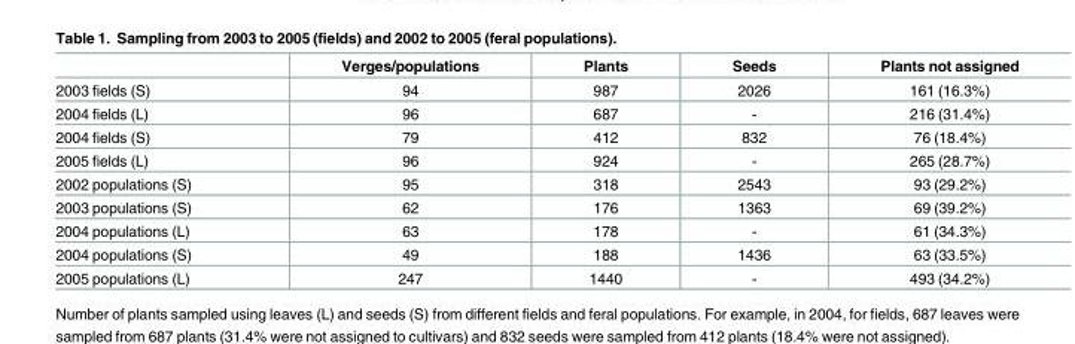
<table><thead><tr><td></td><td>Verges/populations</td><td>Plants</td><td>Seeds</td><td>Plants not assigned</td></tr></thead><tbody><tr><td>2003 fields (S)</td><td>94</td><td>987</td><td>2026</td><td>161 (16.3%)</td></tr><tr><td>2004 fields (L)</td><td>96</td><td>687</td><td>-</td><td>216 (31.4%)</td></tr><tr><td>2004 fields (S)</td><td>79</td><td>412</td><td>832</td><td>76 (18.4%)</td></tr><tr><td>2005 fields (L)</td><td>96</td><td>924</td><td>-</td><td>265 (28.7%)</td></tr><tr><td>2002 populations (S)</td><td>95</td><td>318</td><td>2543</td><td>93 (29.2%)</td></tr><tr><td>2003 populations (S)</td><td>62</td><td>176</td><td>1363</td><td>69 (39.2%)</td></tr><tr><td>2004 populations (L)</td><td>63</td><td>178</td><td>-</td><td>61 (34.3%)</td></tr><tr><td>2004 populations (S)</td><td>49</td><td>188</td><td>1436</td><td>63 (33.5%)</td></tr><tr><td>2005 populations (L)</td><td>247</td><td>1440</td><td>-</td><td>493 (34.2%)</td></tr></tbody></table>